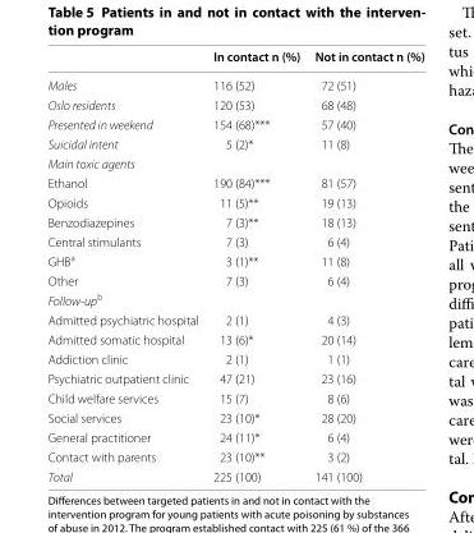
<table><thead><tr><td></td><td>In contact n (%)</td><td>Not in contact n (%)</td></tr></thead><tbody><tr><td>Males</td><td>116 (52)</td><td>72 (51)</td></tr><tr><td>Oslo residents</td><td>120 (53)</td><td>68 (48)</td></tr><tr><td>Presented in weekend</td><td>154 (68)***</td><td>57 (40)</td></tr><tr><td>Suicidal intent</td><td>5 (2)*</td><td>11 (8)</td></tr><tr><td colspan="3">Main toxic agents</td></tr><tr><td>Ethanol</td><td>190 (84)***</td><td>81 (57)</td></tr><tr><td>Opioids</td><td>11 (5)**</td><td>19 (13)</td></tr><tr><td>Benzodiazepines</td><td>7 (3)**</td><td>18 (13)</td></tr><tr><td>Central stimulants</td><td>7 (3)</td><td>6 (4)</td></tr><tr><td>GHB<sup>a</sup></td><td>3 (1)**</td><td>11 (8)</td></tr><tr><td>Other</td><td>7 (3)</td><td>6 (4)</td></tr><tr><td colspan="3">Follow-up<sup>b</sup></td></tr><tr><td>Admitted psychiatric hospital</td><td>2 (1)</td><td>4 (3)</td></tr><tr><td>Admitted somatic hospital</td><td>13 (6)*</td><td>20 (14)</td></tr><tr><td>Addiction clinic</td><td>2 (1)</td><td>1 (1)</td></tr><tr><td>Psychiatric outpatient clinic</td><td>47 (21)</td><td>23 (16)</td></tr><tr><td>Child welfare services</td><td>15 (7)</td><td>8 (6)</td></tr><tr><td>Social services</td><td>23 (10)*</td><td>28 (20)</td></tr><tr><td>General practitioner</td><td>24 (11)*</td><td>6 (4)</td></tr><tr><td>Contact with parents</td><td>23 (10)**</td><td>3 (2)</td></tr><tr><td>Total</td><td>225 (100)</td><td>141 (100)</td></tr></tbody></table>